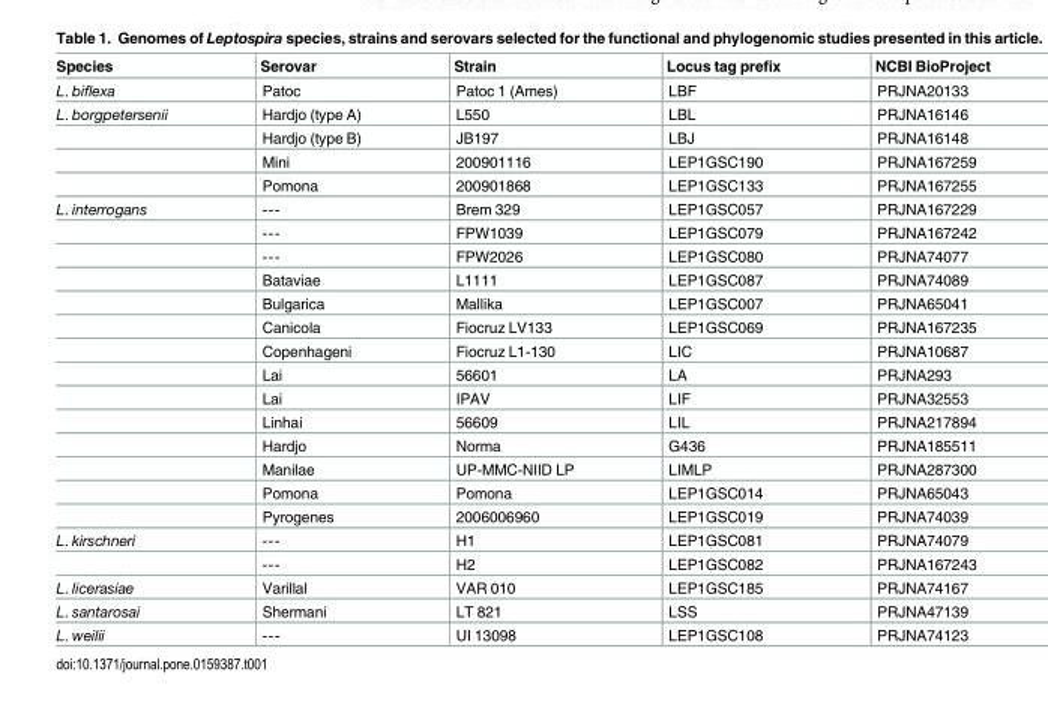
<table><thead><tr><td>Species</td><td>Serovar</td><td>Strain</td><td>Locus tag prefix</td><td>NCBI BioProject</td></tr></thead><tbody><tr><td>L. biflexa</td><td>Patoc</td><td>Patoc 1 (Ames)</td><td>LBF</td><td>PRJNA20133</td></tr><tr><td rowspan="4">L. borgpetersenii</td><td>Hardjo (type A)</td><td>L550</td><td>LBL</td><td>PRJNA16146</td></tr><tr><td>Hardjo (type B)</td><td>JB197</td><td>LBJ</td><td>PRJNA16148</td></tr><tr><td>Mini</td><td>200901116</td><td>LEP1GSC190</td><td>PRJNA167259</td></tr><tr><td>Pomona</td><td>200901868</td><td>LEP1GSC133</td><td>PRJNA167255</td></tr><tr><td rowspan="14">L. interrogans</td><td>---</td><td>Brem 329</td><td>LEP1GSC057</td><td>PRJNA167229</td></tr><tr><td>---</td><td>FPW1039</td><td>LEP1GSC079</td><td>PRJNA167242</td></tr><tr><td>---</td><td>FPW2026</td><td>LEP1GSC080</td><td>PRJNA74077</td></tr><tr><td>Bataviae</td><td>L1111</td><td>LEP1GSC087</td><td>PRJNA74089</td></tr><tr><td>Bulgarica</td><td>Mallika</td><td>LEP1GSC007</td><td>PRJNA65041</td></tr><tr><td>Canicola</td><td>Fiocruz LV133</td><td>LEP1GSC069</td><td>PRJNA167235</td></tr><tr><td>Copenhageni</td><td>Fiocruz L1-130</td><td>LIC</td><td>PRJNA10687</td></tr><tr><td>Lai</td><td>56601</td><td>LA</td><td>PRJNA293</td></tr><tr><td>Lai</td><td>IPAV</td><td>LIF</td><td>PRJNA32553</td></tr><tr><td>Linhai</td><td>56609</td><td>LIL</td><td>PRJNA217894</td></tr><tr><td>Hardjo</td><td>Norma</td><td>G436</td><td>PRJNA185511</td></tr><tr><td>Manilae</td><td>UP-MMC-NIID LP</td><td>LIMLP</td><td>PRJNA287300</td></tr><tr><td>Pomona</td><td>Pomona</td><td>LEP1GSC014</td><td>PRJNA65043</td></tr><tr><td>Pyrogenes</td><td>2006006960</td><td>LEP1GSC019</td><td>PRJNA74039</td></tr><tr><td rowspan="2">L. kirschneri</td><td>---</td><td>H1</td><td>LEP1GSC081</td><td>PRJNA74079</td></tr><tr><td>---</td><td>H2</td><td>LEP1GSC082</td><td>PRJNA167243</td></tr><tr><td>L. licerasiae</td><td>Varillal</td><td>VAR 010</td><td>LEP1GSC185</td><td>PRJNA74167</td></tr><tr><td>L. santarosai</td><td>Shermani</td><td>LT 821</td><td>LSS</td><td>PRJNA47139</td></tr><tr><td>L. weilii</td><td>---</td><td>UI 13098</td><td>LEP1GSC108</td><td>PRJNA74123</td></tr></tbody></table>